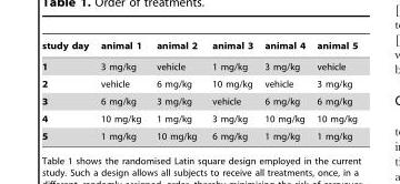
<table><thead><tr><td>study day</td><td>animal 1</td><td>animal 2</td><td>animal 3</td><td>animal 4</td><td>animal 5</td></tr></thead><tbody><tr><td>1</td><td>3 mg/kg</td><td>vehicle</td><td>1 mg/kg</td><td>3 mg/kg</td><td>vehicle</td></tr><tr><td>2</td><td>vehicle</td><td>6 mg/kg</td><td>10 mg/kg</td><td>vehicle</td><td>3 mg/kg</td></tr><tr><td>3</td><td>6 mg/kg</td><td>3 mg/kg</td><td>vehicle</td><td>6 mg/kg</td><td>6 mg/kg</td></tr><tr><td>4</td><td>10 mg/kg</td><td>1 mg/kg</td><td>3 mg/kg</td><td>10 mg/kg</td><td>10 mg/kg</td></tr><tr><td>5</td><td>1 mg/kg</td><td>10 mg/kg</td><td>6 mg/kg</td><td>1 mg/kg</td><td>1 mg/kg</td></tr></tbody></table>